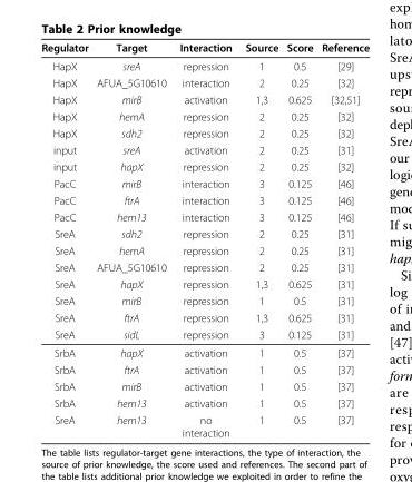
<table><thead><tr><td>Regulator</td><td>Target</td><td>Interaction</td><td>Source</td><td>Score</td><td>Reference</td></tr></thead><tbody><tr><td>HapX</td><td>sreA</td><td>repression</td><td>1</td><td>0.5</td><td>[29]</td></tr><tr><td>HapX</td><td>AFUA_5G10610</td><td>interaction</td><td>2</td><td>0.25</td><td>[32]</td></tr><tr><td>HapX</td><td>mirB</td><td>activation</td><td>1,3</td><td>0.625</td><td>[32,51]</td></tr><tr><td>HapX</td><td>hemA</td><td>repression</td><td>2</td><td>0.25</td><td>[32]</td></tr><tr><td>HapX</td><td>sdh2</td><td>repression</td><td>2</td><td>0.25</td><td>[32]</td></tr><tr><td>input</td><td>sreA</td><td>activation</td><td>2</td><td>0.25</td><td>[31]</td></tr><tr><td>input</td><td>hapX</td><td>repression</td><td>2</td><td>0.25</td><td>[32]</td></tr><tr><td>PacC</td><td>mirB</td><td>interaction</td><td>3</td><td>0.125</td><td>[46]</td></tr><tr><td>PacC</td><td>ftrA</td><td>interaction</td><td>3</td><td>0.125</td><td>[46]</td></tr><tr><td>PacC</td><td>hem13</td><td>interaction</td><td>3</td><td>0.125</td><td>[46]</td></tr><tr><td>SreA</td><td>sdh2</td><td>repression</td><td>2</td><td>0.25</td><td>[31]</td></tr><tr><td>SreA</td><td>hemA</td><td>repression</td><td>2</td><td>0.25</td><td>[31]</td></tr><tr><td>SreA</td><td>AFUA_5G10610</td><td>repression</td><td>2</td><td>0.25</td><td>[31]</td></tr><tr><td>SreA</td><td>hapX</td><td>repression</td><td>1,3</td><td>0.625</td><td>[31]</td></tr><tr><td>SreA</td><td>mirB</td><td>repression</td><td>1</td><td>0.5</td><td>[31]</td></tr><tr><td>SreA</td><td>ftrA</td><td>repression</td><td>1,3</td><td>0.625</td><td>[31]</td></tr><tr><td>SreA</td><td>sidL</td><td>repression</td><td>3</td><td>0.125</td><td>[31]</td></tr><tr><td>SrbA</td><td>hapX</td><td>activation</td><td>1</td><td>0.5</td><td>[37]</td></tr><tr><td>SrbA</td><td>ftrA</td><td>activation</td><td>1</td><td>0.5</td><td>[37]</td></tr><tr><td>SrbA</td><td>mirB</td><td>activation</td><td>1</td><td>0.5</td><td>[37]</td></tr><tr><td>SrbA</td><td>hem13</td><td>activation</td><td>1</td><td>0.5</td><td>[37]</td></tr><tr><td>SreA</td><td>hem13</td><td>no interaction</td><td>1</td><td>0.5</td><td>[37]</td></tr></tbody></table>